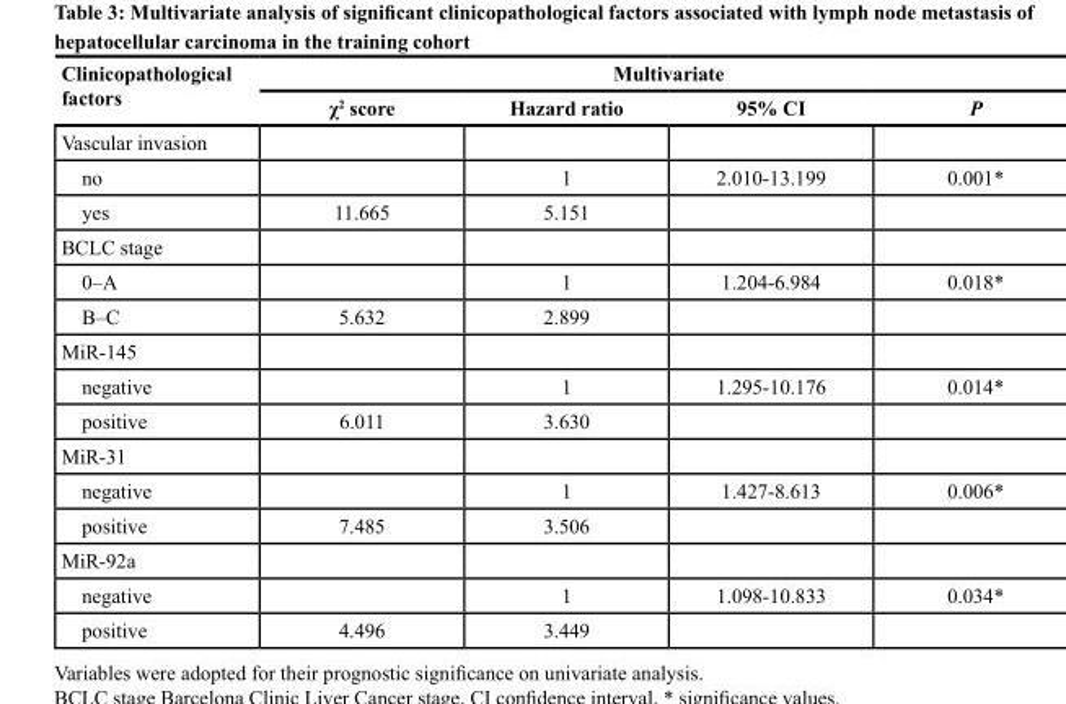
<table><thead><tr><td rowspan="2">Clinicopathological factors</td><td colspan="4">Multivariate</td></tr><tr><td>χ<sup>2</sup> score</td><td>Hazard ratio</td><td>95% CI</td><td>P</td></tr></thead><tbody><tr><td colspan="5">Vascular invasion</td></tr><tr><td>no</td><td></td><td>1</td><td>2.010-13.199</td><td>0.001*</td></tr><tr><td>yes</td><td>11.665</td><td>5.151</td><td></td><td></td></tr><tr><td colspan="5">BCLC stage</td></tr><tr><td>0–A</td><td></td><td>1</td><td>1.204-6.984</td><td>0.018*</td></tr><tr><td>B–C</td><td>5.632</td><td>2.899</td><td></td><td></td></tr><tr><td colspan="5">MiR-145</td></tr><tr><td>negative</td><td></td><td>1</td><td>1.295-10.176</td><td>0.014*</td></tr><tr><td>positive</td><td>6.011</td><td>3.630</td><td></td><td></td></tr><tr><td colspan="5">MiR-31</td></tr><tr><td>negative</td><td></td><td>1</td><td>1.427-8.613</td><td>0.006*</td></tr><tr><td>positive</td><td>7.485</td><td>3.506</td><td></td><td></td></tr><tr><td colspan="5">MiR-92a</td></tr><tr><td>negative</td><td></td><td>1</td><td>1.098-10.833</td><td>0.034*</td></tr><tr><td>positive</td><td>4.496</td><td>3.449</td><td></td><td></td></tr></tbody></table>